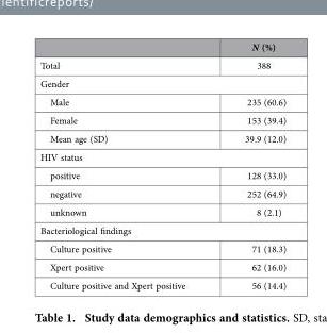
<table><thead><tr><td></td><td>N (%)</td></tr></thead><tbody><tr><td>Total</td><td>388</td></tr><tr><td colspan="2">Gender</td></tr><tr><td>Male</td><td>235 (60.6)</td></tr><tr><td>Female</td><td>153 (39.4)</td></tr><tr><td>Mean age (SD)</td><td>39.9 (12.0)</td></tr><tr><td colspan="2">HIV status</td></tr><tr><td>positive</td><td>128 (33.0)</td></tr><tr><td>negative</td><td>252 (64.9)</td></tr><tr><td>unknown</td><td>8 (2.1)</td></tr><tr><td colspan="2">Bacteriological findings</td></tr><tr><td>Culture positive</td><td>71 (18.3)</td></tr><tr><td>Xpert positive</td><td>62 (16.0)</td></tr><tr><td>Culture positive and Xpert positive</td><td>56 (14.4)</td></tr></tbody></table>